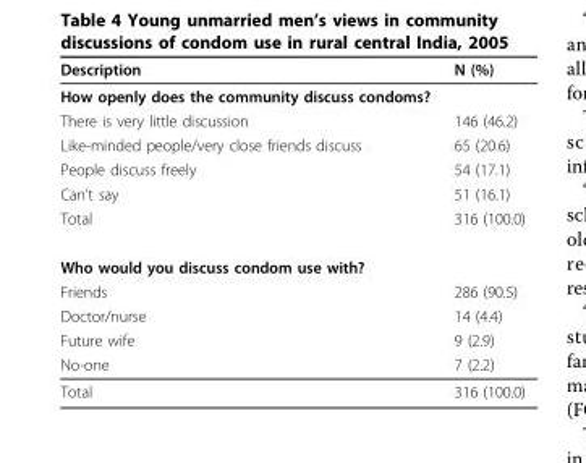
<table><thead><tr><td>Description</td><td>N (%)</td></tr></thead><tbody><tr><td colspan="2">How openly does the community discuss condoms?</td></tr><tr><td>There is very little discussion</td><td>146 (46.2)</td></tr><tr><td>Like-minded people/very close friends discuss</td><td>65 (20.6)</td></tr><tr><td>People discuss freely</td><td>54 (17.1)</td></tr><tr><td>Can’t say</td><td>51 (16.1)</td></tr><tr><td>Total</td><td>316 (100.0)</td></tr><tr><td colspan="2">Who would you discuss condom use with?</td></tr><tr><td>Friends</td><td>286 (90.5)</td></tr><tr><td>Doctor/nurse</td><td>14 (4.4)</td></tr><tr><td>Future wife</td><td>9 (2.9)</td></tr><tr><td>No-one</td><td>7 (2.2)</td></tr><tr><td>Total</td><td>316 (100.0)</td></tr></tbody></table>